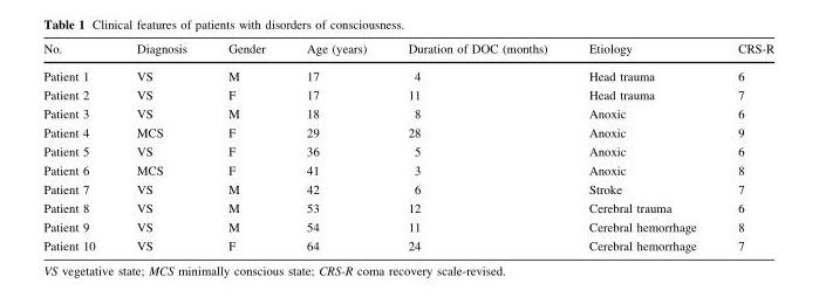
<table><thead><tr><td>No.</td><td>Diagnosis</td><td>Gender</td><td>Age (years)</td><td>Duration of DOC (months)</td><td>Etiology</td><td>CRS-R</td></tr></thead><tbody><tr><td>Patient 1</td><td>VS</td><td>M</td><td>17</td><td>4</td><td>Head trauma</td><td>6</td></tr><tr><td>Patient 2</td><td>VS</td><td>F</td><td>17</td><td>11</td><td>Head trauma</td><td>7</td></tr><tr><td>Patient 3</td><td>VS</td><td>M</td><td>18</td><td>8</td><td>Anoxic</td><td>6</td></tr><tr><td>Patient 4</td><td>MCS</td><td>F</td><td>29</td><td>28</td><td>Anoxic</td><td>9</td></tr><tr><td>Patient 5</td><td>VS</td><td>F</td><td>36</td><td>5</td><td>Anoxic</td><td>6</td></tr><tr><td>Patient 6</td><td>MCS</td><td>F</td><td>41</td><td>3</td><td>Anoxic</td><td>8</td></tr><tr><td>Patient 7</td><td>VS</td><td>M</td><td>42</td><td>6</td><td>Stroke</td><td>7</td></tr><tr><td>Patient 8</td><td>VS</td><td>M</td><td>53</td><td>12</td><td>Cerebral trauma</td><td>6</td></tr><tr><td>Patient 9</td><td>VS</td><td>M</td><td>54</td><td>11</td><td>Cerebral hemorrhage</td><td>8</td></tr><tr><td>Patient 10</td><td>VS</td><td>F</td><td>64</td><td>24</td><td>Cerebral hemorrhage</td><td>7</td></tr></tbody></table>